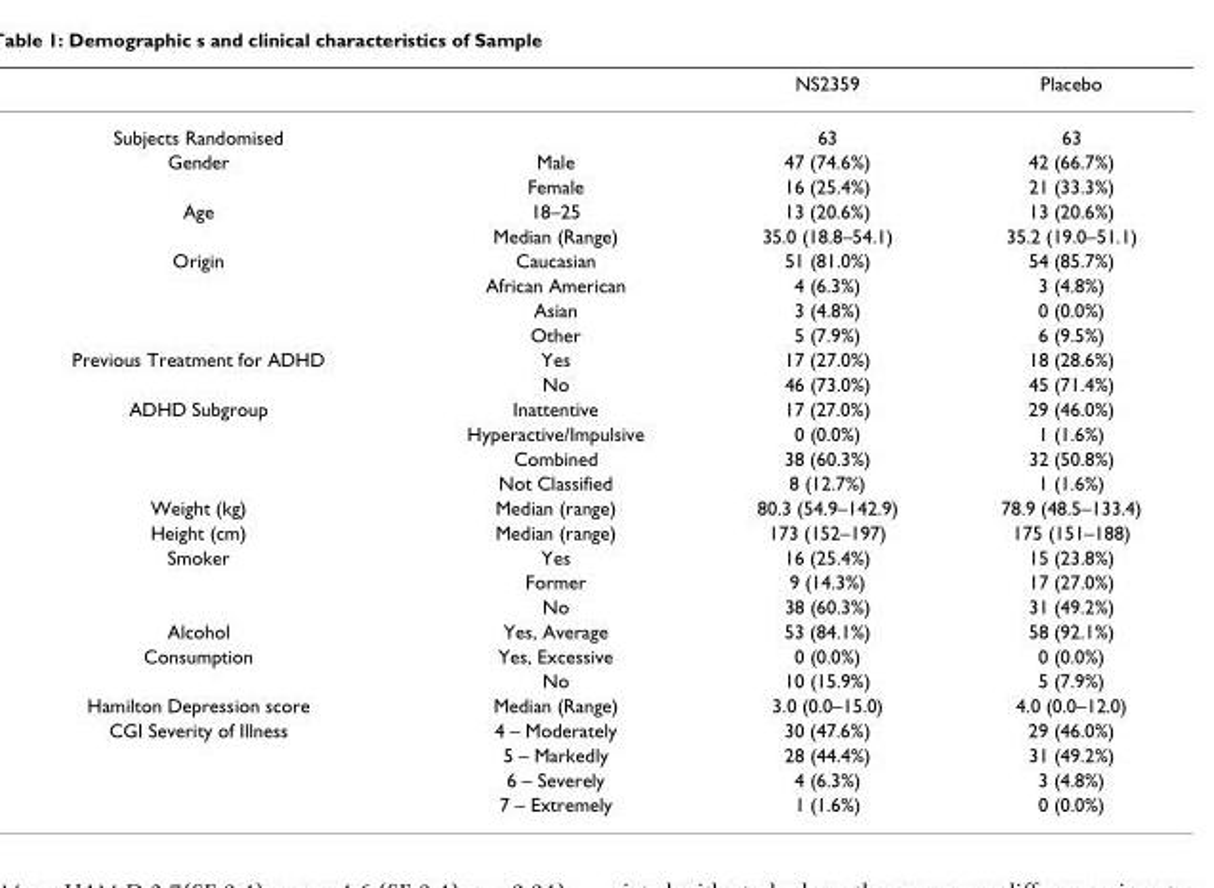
<table><thead><tr><td></td><td></td><td>NS2359</td><td>Placebo</td></tr></thead><tbody><tr><td>Subjects Randomised</td><td></td><td>63</td><td>63</td></tr><tr><td rowspan="2">Gender</td><td>Male</td><td>47 (74.6%)</td><td>42 (66.7%)</td></tr><tr><td>Female</td><td>16 (25.4%)</td><td>21 (33.3%)</td></tr><tr><td rowspan="2">Age</td><td>18–25</td><td>13 (20.6%)</td><td>13 (20.6%)</td></tr><tr><td>Median (Range)</td><td>35.0 (18.8–54.1)</td><td>35.2 (19.0–51.1)</td></tr><tr><td rowspan="4">Origin</td><td>Caucasian</td><td>51 (81.0%)</td><td>54 (85.7%)</td></tr><tr><td>African American</td><td>4 (6.3%)</td><td>3 (4.8%)</td></tr><tr><td>Asian</td><td>3 (4.8%)</td><td>0 (0.0%)</td></tr><tr><td>Other</td><td>5 (7.9%)</td><td>6 (9.5%)</td></tr><tr><td rowspan="2">Previous Treatment for ADHD</td><td>Yes</td><td>17 (27.0%)</td><td>18 (28.6%)</td></tr><tr><td>No</td><td>46 (73.0%)</td><td>45 (71.4%)</td></tr><tr><td rowspan="4">ADHD Subgroup</td><td>Inattentive</td><td>17 (27.0%)</td><td>29 (46.0%)</td></tr><tr><td>Hyperactive/Impulsive</td><td>0 (0.0%)</td><td>1 (1.6%)</td></tr><tr><td>Combined</td><td>38 (60.3%)</td><td>32 (50.8%)</td></tr><tr><td>Not Classified</td><td>8 (12.7%)</td><td>1 (1.6%)</td></tr><tr><td>Weight (kg)</td><td>Median (range)</td><td>80.3 (54.9–142.9)</td><td>78.9 (48.5–133.4)</td></tr><tr><td>Height (cm)</td><td>Median (range)</td><td>173 (152–197)</td><td>175 (151–188)</td></tr><tr><td rowspan="3">Smoker</td><td>Yes</td><td>16 (25.4%)</td><td>15 (23.8%)</td></tr><tr><td>Former</td><td>9 (14.3%)</td><td>17 (27.0%)</td></tr><tr><td>No</td><td>38 (60.3%)</td><td>31 (49.2%)</td></tr><tr><td>Alcohol</td><td>Yes, Average</td><td>53 (84.1%)</td><td>58 (92.1%)</td></tr><tr><td rowspan="2">Consumption</td><td>Yes, Excessive</td><td>0 (0.0%)</td><td>0 (0.0%)</td></tr><tr><td>No</td><td>10 (15.9%)</td><td>5 (7.9%)</td></tr><tr><td>Hamilton Depression score</td><td>Median (Range)</td><td>3.0 (0.0–15.0)</td><td>4.0 (0.0–12.0)</td></tr><tr><td rowspan="4">CGI Severity of Illness</td><td>4 – Moderately</td><td>30 (47.6%)</td><td>29 (46.0%)</td></tr><tr><td>5 – Markedly</td><td>28 (44.4%)</td><td>31 (49.2%)</td></tr><tr><td>6 – Severely</td><td>4 (6.3%)</td><td>3 (4.8%)</td></tr><tr><td>7 – Extremely</td><td>1 (1.6%)</td><td>0 (0.0%)</td></tr></tbody></table>